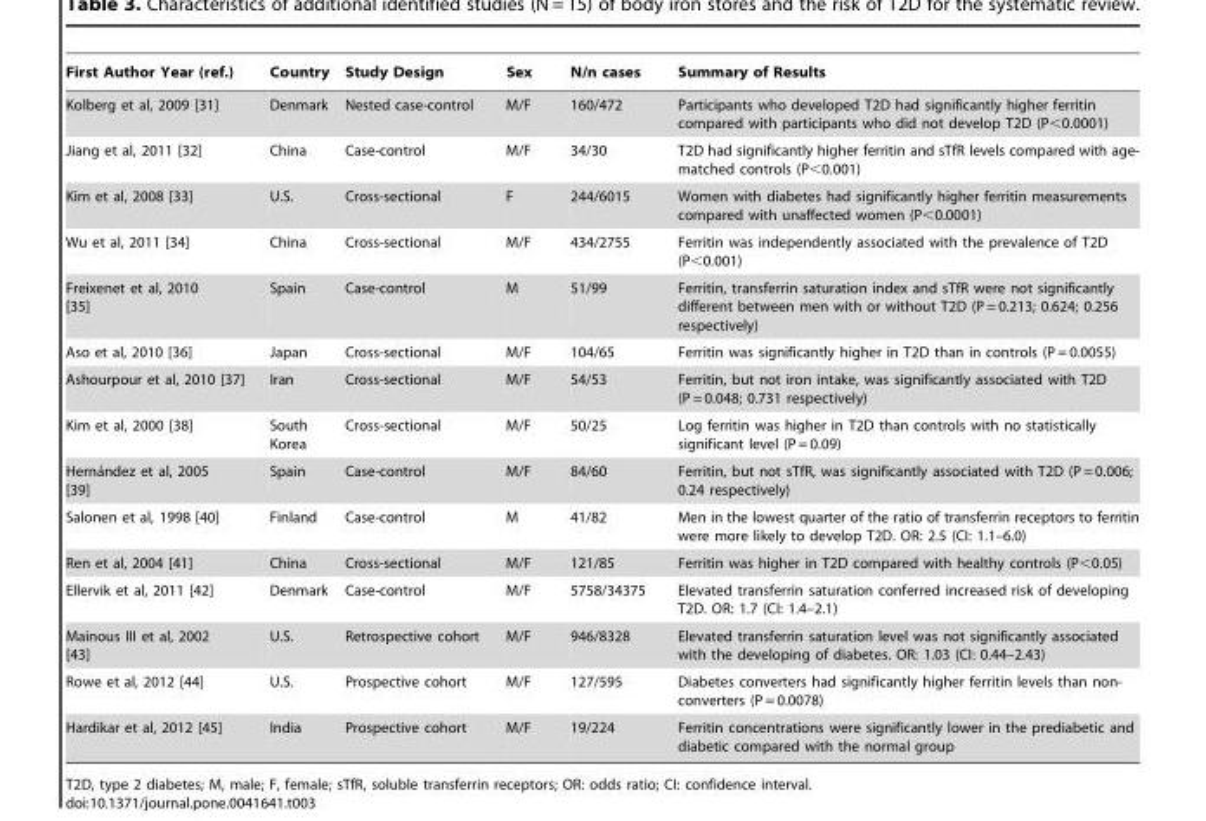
<table><thead><tr><td>First Author Year (ref.)</td><td>Country</td><td>Study Design</td><td>Sex</td><td>N/n cases</td><td>Summary of Results</td></tr></thead><tbody><tr><td>Kolberg et al, 2009 [31]</td><td>Denmark</td><td>Nested case-control</td><td>M/F</td><td>160/472</td><td>Participants who developed T2D had significantly higher ferritin compared with participants who did not develop T2D (P&lt;0.0001)</td></tr><tr><td>Jiang et al, 2011 [32]</td><td>China</td><td>Case-control</td><td>M/F</td><td>34/30</td><td>T2D had significantly higher ferritin and sTfR levels compared with age- matched controls (P&lt;0.001)</td></tr><tr><td>Kim et al, 2008 [33]</td><td>U.S.</td><td>Cross-sectional</td><td>F</td><td>244/6015</td><td>Women with diabetes had significantly higher ferritin measurements compared with unaffected women (P&lt;0.0001)</td></tr><tr><td>Wu et al, 2011 [34]</td><td>China</td><td>Cross-sectional</td><td>M/F</td><td>434/2755</td><td>Ferritin was independently associated with the prevalence of T2D (P&lt;0.001)</td></tr><tr><td>Freixenet et al, 2010 [35]</td><td>Spain</td><td>Case-control</td><td>M</td><td>51/99</td><td>Ferritin, transferrin saturation index and sTfR were not significantly different between men with or without T2D (P = 0.213; 0.624; 0.256 respectively)</td></tr><tr><td>Aso et al, 2010 [36]</td><td>Japan</td><td>Cross-sectional</td><td>M/F</td><td>104/65</td><td>Ferritin was significantly higher in T2D than in controls (P = 0.0055)</td></tr><tr><td>Ashourpour et al, 2010 [37]</td><td>Iran</td><td>Cross-sectional</td><td>M/F</td><td>54/53</td><td>Ferritin, but not iron intake, was significantly associated with T2D (P = 0.048; 0.731 respectively)</td></tr><tr><td>Kim et al, 2000 [38]</td><td>South Korea</td><td>Cross-sectional</td><td>M/F</td><td>50/25</td><td>Log ferritin was higher in T2D than controls with no statistically significant level (P = 0.09)</td></tr><tr><td>Herna´ndez et al, 2005 [39]</td><td>Spain</td><td>Case-control</td><td>M/F</td><td>84/60</td><td>Ferritin, but not sTfR, was significantly associated with T2D (P = 0.006; 0.24 respectively)</td></tr><tr><td>Salonen et al, 1998 [40]</td><td>Finland</td><td>Case-control</td><td>M</td><td>41/82</td><td>Men in the lowest quarter of the ratio of transferrin receptors to ferritin were more likely to develop T2D. OR: 2.5 (CI: 1.1–6.0)</td></tr><tr><td>Ren et al, 2004 [41]</td><td>China</td><td>Cross-sectional</td><td>M/F</td><td>121/85</td><td>Ferritin was higher in T2D compared with healthy controls (P&lt;0.05)</td></tr><tr><td>Ellervik et al, 2011 [42]</td><td>Denmark</td><td>Case-control</td><td>M/F</td><td>5758/34375</td><td>Elevated transferrin saturation conferred increased risk of developing T2D. OR: 1.7 (CI: 1.4–2.1)</td></tr><tr><td>Mainous III et al, 2002 [43]</td><td>U.S.</td><td>Retrospective cohort</td><td>M/F</td><td>946/8328</td><td>Elevated transferrin saturation level was not significantly associated with the developing of diabetes. OR: 1.03 (CI: 0.44–2.43)</td></tr><tr><td>Rowe et al, 2012 [44]</td><td>U.S.</td><td>Prospective cohort</td><td>M/F</td><td>127/595</td><td>Diabetes converters had significantly higher ferritin levels than non- converters (P = 0.0078)</td></tr><tr><td>Hardikar et al, 2012 [45]</td><td>India</td><td>Prospective cohort</td><td>M/F</td><td>19/224</td><td>Ferritin concentrations were significantly lower in the prediabetic and diabetic compared with the normal group</td></tr></tbody></table>